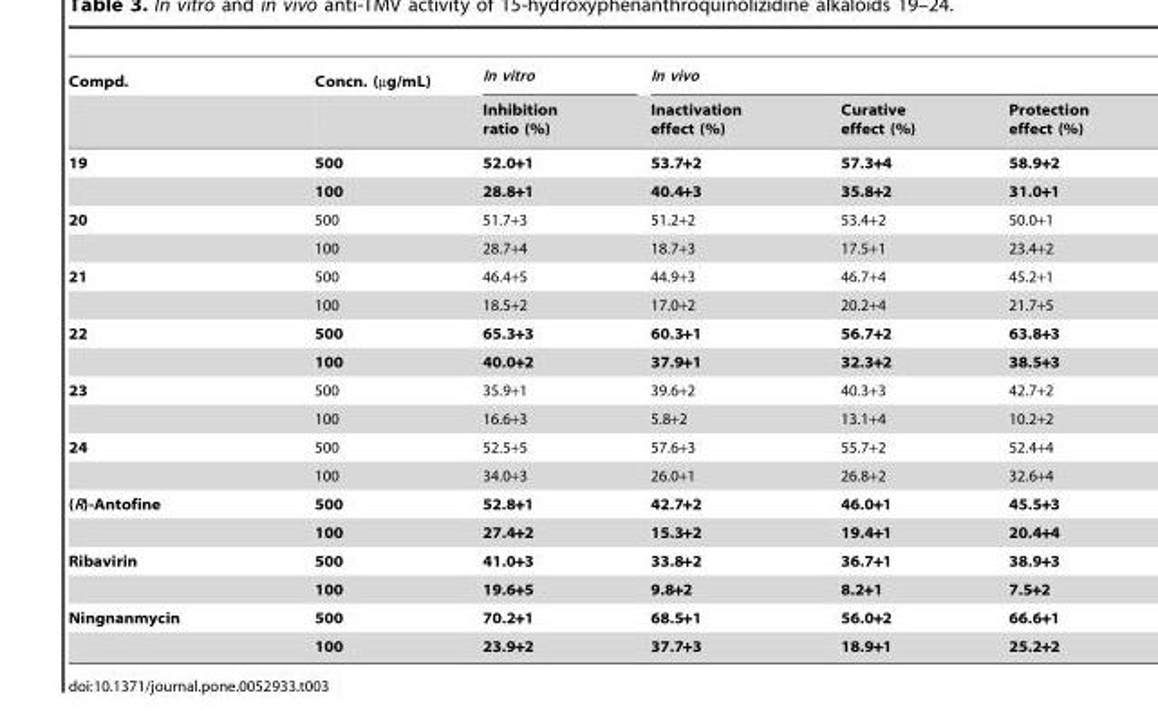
<table><thead><tr><td rowspan="2">Compd.</td><td rowspan="2">Concn. (µg/mL)</td><td rowspan="2">In vitro Inhibition ratio (%)</td><td colspan="3">In vivo</td></tr><tr><td>Inactivation effect (%)</td><td>Curative effect (%)</td><td>Protection effect (%)</td></tr></thead><tbody><tr><td rowspan="2">19</td><td>500</td><td>52.0+1</td><td>53.7+2</td><td>57.3+4</td><td>58.9+2</td></tr><tr><td>100</td><td>28.8+1</td><td>40.4+3</td><td>35.8+2</td><td>31.0+1</td></tr><tr><td rowspan="2">20</td><td>500</td><td>51.7+3</td><td>51.2+2</td><td>53.4+2</td><td>50.0+1</td></tr><tr><td>100</td><td>28.7+4</td><td>18.7+3</td><td>17.5+1</td><td>23.4+2</td></tr><tr><td rowspan="2">21</td><td>500</td><td>46.4+5</td><td>44.9+3</td><td>46.7+4</td><td>45.2+1</td></tr><tr><td>100</td><td>18.5+2</td><td>17.0+2</td><td>20.2+4</td><td>21.7+5</td></tr><tr><td rowspan="2">22</td><td>500</td><td>65.3+3</td><td>60.3+1</td><td>56.7+2</td><td>63.8+3</td></tr><tr><td>100</td><td>40.0+2</td><td>37.9+1</td><td>32.3+2</td><td>38.5+3</td></tr><tr><td rowspan="2">23</td><td>500</td><td>35.9+1</td><td>39.6+2</td><td>40.3+3</td><td>42.7+2</td></tr><tr><td>100</td><td>16.6+3</td><td>5.8+2</td><td>13.1+4</td><td>10.2+2</td></tr><tr><td rowspan="2">24</td><td>500</td><td>52.5+5</td><td>57.6+3</td><td>55.7+2</td><td>52.4+4</td></tr><tr><td>100</td><td>34.0+3</td><td>26.0+1</td><td>26.8+2</td><td>32.6+4</td></tr><tr><td rowspan="2">(R)-Antofine</td><td>500</td><td>52.8+1</td><td>42.7+2</td><td>46.0+1</td><td>45.5+3</td></tr><tr><td>100</td><td>27.4+2</td><td>15.3+2</td><td>19.4+1</td><td>20.4+4</td></tr><tr><td rowspan="2">Ribavirin</td><td>500</td><td>41.0+3</td><td>33.8+2</td><td>36.7+1</td><td>38.9+3</td></tr><tr><td>100</td><td>19.6+5</td><td>9.8+2</td><td>8.2+1</td><td>7.5+2</td></tr><tr><td rowspan="2">Ningnanmycin</td><td>500</td><td>70.2+1</td><td>68.5+1</td><td>56.0+2</td><td>66.6+1</td></tr><tr><td>100</td><td>23.9+2</td><td>37.7+3</td><td>18.9+1</td><td>25.2+2</td></tr></tbody></table>